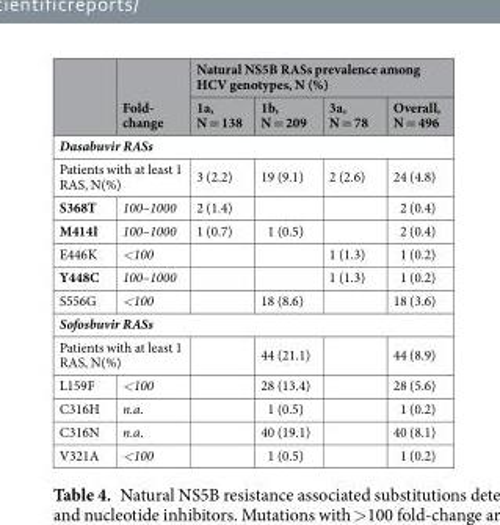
<table><thead><tr><td rowspan="2"></td><td rowspan="2">Fold- change</td><td colspan="4">Natural NS5B RASs prevalence among HCV genotypes, N (%)</td></tr><tr><td>1a, N = 138</td><td>1b, N = 209</td><td>3a, N = 78</td><td>Overall, N = 496</td></tr></thead><tbody><tr><td colspan="6">Dasabuvir RASs</td></tr><tr><td colspan="2">Patients with at least 1 RAS, N(%)</td><td>3 (2.2)</td><td>19 (9.1)</td><td>2 (2.6)</td><td>24 (4.8)</td></tr><tr><td>S368T</td><td>100–1000</td><td>2 (1.4)</td><td></td><td></td><td>2 (0.4)</td></tr><tr><td>M414I</td><td>100–1000</td><td>1 (0.7)</td><td>1 (0.5)</td><td></td><td>2 (0.4)</td></tr><tr><td>E446K</td><td>&lt;100</td><td></td><td></td><td>1 (1.3)</td><td>1 (0.2)</td></tr><tr><td>Y448C</td><td>100–1000</td><td></td><td></td><td>1 (1.3)</td><td>1 (0.2)</td></tr><tr><td>S556G</td><td>&lt;100</td><td></td><td>18 (8.6)</td><td></td><td>18 (3.6)</td></tr><tr><td colspan="6">Sofosbuvir RASs</td></tr><tr><td colspan="2">Patients with at least 1 RAS, N(%)</td><td></td><td>44 (21.1)</td><td></td><td>44 (8.9)</td></tr><tr><td>L159F</td><td>&lt;100</td><td></td><td>28 (13.4)</td><td></td><td>28 (5.6)</td></tr><tr><td>C316H</td><td>n.a.</td><td></td><td>1 (0.5)</td><td></td><td>1 (0.2)</td></tr><tr><td>C316N</td><td>n.a.</td><td></td><td>40 (19.1)</td><td></td><td>40 (8.1)</td></tr><tr><td>V321A</td><td>&lt;100</td><td></td><td>1 (0.5)</td><td></td><td>1 (0.2)</td></tr></tbody></table>